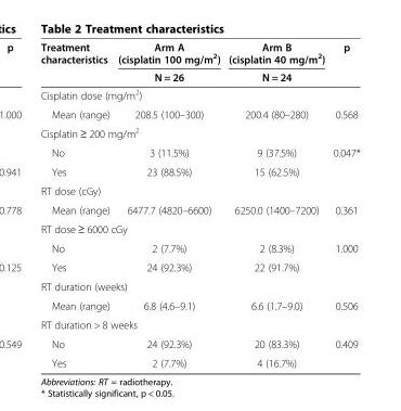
<table><thead><tr><td rowspan="2">Treatment characteristics</td><td rowspan="2">Arm A (cisplatin 100 mg/m<sup>2</sup>) N = 26</td><td rowspan="2">Arm B (cisplatin 40 mg/m<sup>2</sup>) N = 24</td><td rowspan="2">p</td></tr><tr></tr></thead><tbody><tr><td colspan="4">Cisplatin dose (mg/m<sup>2</sup>)</td></tr><tr><td>Mean (range)</td><td>208.5 (100–300)</td><td>200.4 (80–280)</td><td>0.568</td></tr><tr><td colspan="4">Cisplatin ≥ 200 mg/m<sup>2</sup></td></tr><tr><td>No</td><td>3 (11.5%)</td><td>9 (37.5%)</td><td rowspan="2">0.047*</td></tr><tr><td>Yes</td><td>23 (88.5%)</td><td>15 (62.5%)</td></tr><tr><td colspan="4">RT dose (cGy)</td></tr><tr><td>Mean (range)</td><td>6477.7 (4820–6600)</td><td>6250.0 (1400–7200)</td><td>0.361</td></tr><tr><td colspan="4">RT dose ≥ 6000 cGy</td></tr><tr><td>No</td><td>2 (7.7%)</td><td>2 (8.3%)</td><td rowspan="2">1.000</td></tr><tr><td>Yes</td><td>24 (92.3%)</td><td>22 (91.7%)</td></tr><tr><td colspan="4">RT duration (weeks)</td></tr><tr><td>Mean (range)</td><td>6.8 (4.6–9.1)</td><td>6.6 (1.7–9.0)</td><td>0.506</td></tr><tr><td colspan="4">RT duration &gt; 8 weeks</td></tr><tr><td>No</td><td>24 (92.3%)</td><td>20 (83.3%)</td><td rowspan="2">0.409</td></tr><tr><td>Yes</td><td>2 (7.7%)</td><td>4 (16.7%)</td></tr></tbody></table>